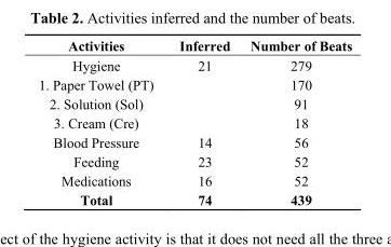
<table><thead><tr><td>Activities</td><td>Inferred</td><td>Number of Beats</td></tr></thead><tbody><tr><td>Hygiene</td><td>21</td><td>279</td></tr><tr><td>1. Paper Towel (PT)</td><td></td><td>170</td></tr><tr><td>2. Solution (Sol)</td><td></td><td>91</td></tr><tr><td>3. Cream (Cre)</td><td></td><td>18</td></tr><tr><td>Blood Pressure</td><td>14</td><td>56</td></tr><tr><td>Feeding</td><td>23</td><td>52</td></tr><tr><td>Medications</td><td>16</td><td>52</td></tr><tr><td>Total</td><td>74</td><td>439</td></tr></tbody></table>